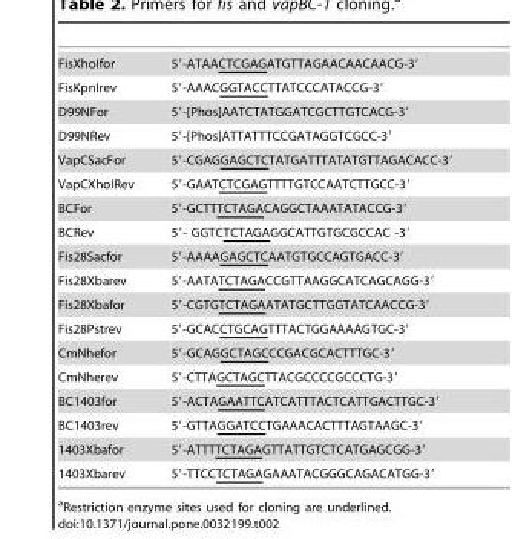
<table><tbody><tr><td>FisXhoIfor</td><td>5′-ATAACTCGAGATGTTAGAACAACAACG-3′</td></tr><tr><td>FisKpnIrev</td><td>5′-AAACGGTACCTTATCCCATACCG-3′</td></tr><tr><td>D99NFor</td><td>5′-[Phos]AATCTATGGATCGCTTGTCACG-3′</td></tr><tr><td>D99NRev</td><td>5′-[Phos]ATTATTTCCGATAGGTCGCC-3′</td></tr><tr><td>VapCSacFor</td><td>5′-CGAGGAGCTCTATGATTTATATGTTAGACACC-3′</td></tr><tr><td>VapCXhoIRev</td><td>5′-GAATCTCGAGTTTTGTCCAATCTTGCC-3′</td></tr><tr><td>BCFor</td><td>5′-GCTTTCTAGACAGGCTAAATATACCG-3′</td></tr><tr><td>BCRev</td><td>5′- GGTCTCTAGAGGCATTGTGCGCCAC -3′</td></tr><tr><td>Fis28Sacfor</td><td>5′-AAAAGAGCTCAATGTGCCAGTGACC-3′</td></tr><tr><td>Fis28Xbarev</td><td>5′-AATATCTAGACCGTTAAGGCATCAGCAGG-3′</td></tr><tr><td>Fis28Xbafor</td><td>5′-CGTGTCTAGAATATGCTTGGTATCAACCG-3′</td></tr><tr><td>Fis28Pstrev</td><td>5′-GCACCTGCAGTTTACTGGAAAAGTGC-3′</td></tr><tr><td>CmNhefor</td><td>5′-GCAGGCTAGCCCGACGCACTTTGC-3′</td></tr><tr><td>CmNherev</td><td>5′-CTTAGCTAGCTTACGCCCCGCCCTG-3′</td></tr><tr><td>BC1403for</td><td>5′-ACTAGAATTCATCATTTACTCATTGACTTGC-3′</td></tr><tr><td>BC1403rev</td><td>5′-GTTAGGATCCTGAAACACTTTAGTAAGC-3′</td></tr><tr><td>1403Xbafor</td><td>5′-ATTTTCTAGAGTTATTGTCTCATGAGCGG-3′</td></tr><tr><td>1403Xbarev</td><td>5′-TTCCTCTAGAGAAATACGGGCAGACATGG-3′</td></tr></tbody></table>